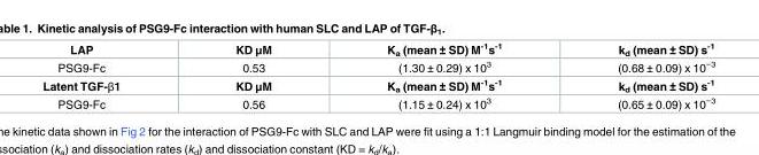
<table><tbody><tr><td>LAP</td><td>KD μM</td><td>K<sub>a</sub> (mean ± SD) M<sup>-1</sup>s<sup>-1</sup></td><td>k<sub>d</sub> (mean ± SD) s<sup>-1</sup></td></tr><tr><td>PSG9-Fc</td><td>0.53</td><td>(1.30 ± 0.29) x 10<sup>3</sup></td><td>(0.68 ± 0.09) x 10<sup>−3</sup></td></tr><tr><td>Latent TGF-β1</td><td>KD μM</td><td>K<sub>a</sub> (mean ± SD) M<sup>-1</sup>s<sup>-1</sup></td><td>k<sub>d</sub> (mean ± SD) s<sup>-1</sup></td></tr><tr><td>PSG9-Fc</td><td>0.56</td><td>(1.15 ± 0.24) x 10<sup>3</sup></td><td>(0.65 ± 0.09) x 10<sup>−3</sup></td></tr></tbody></table>